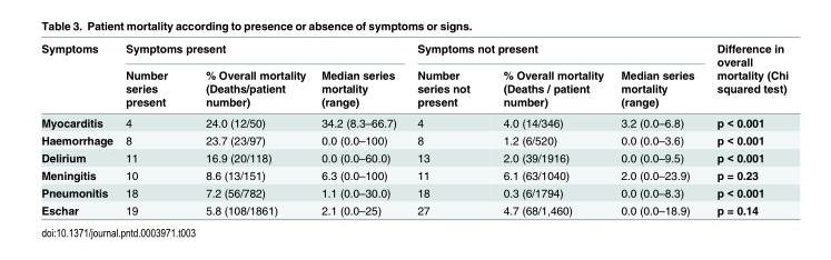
<table><thead><tr><td rowspan="2">Symptoms</td><td colspan="3">Symptoms present</td><td colspan="3">Symptoms not present</td><td rowspan="2">Difference in overall mortality (Chi squared test)</td></tr><tr><td>Number series present</td><td>% Overall mortality (Deaths/patient number)</td><td>Median series mortality (range)</td><td>Number series not present</td><td>% Overall mortality (Deaths / patient number)</td><td>Median series mortality (range)</td></tr></thead><tbody><tr><td>Myocarditis</td><td>4</td><td>24.0 (12/50)</td><td>34.2 (8.3–66.7)</td><td>4</td><td>4.0 (14/346)</td><td>3.2 (0.0–6.8)</td><td>p &lt; 0.001</td></tr><tr><td>Haemorrhage</td><td>8</td><td>23.7 (23/97)</td><td>0.0 (0.0–100)</td><td>8</td><td>1.2 (6/520)</td><td>0.0 (0.0–3.6)</td><td>p &lt; 0.001</td></tr><tr><td>Delirium</td><td>11</td><td>16.9 (20/118)</td><td>0.0 (0.0–60.0)</td><td>13</td><td>2.0 (39/1916)</td><td>0.0 (0.0–9.5)</td><td>p &lt; 0.001</td></tr><tr><td>Meningitis</td><td>10</td><td>8.6 (13/151)</td><td>6.3 (0.0–100)</td><td>11</td><td>6.1 (63/1040)</td><td>2.0 (0.0–23.9)</td><td>p = 0.23</td></tr><tr><td>Pneumonitis</td><td>18</td><td>7.2 (56/782)</td><td>1.1 (0.0–30.0)</td><td>18</td><td>0.3 (6/1794)</td><td>0.0 (0.0–8.3)</td><td>p &lt; 0.001</td></tr><tr><td>Eschar</td><td>19</td><td>5.8 (108/1861)</td><td>2.1 (0.0–25)</td><td>27</td><td>4.7 (68/1,460)</td><td>0.0 (0.0–18.9)</td><td>p = 0.14</td></tr></tbody></table>